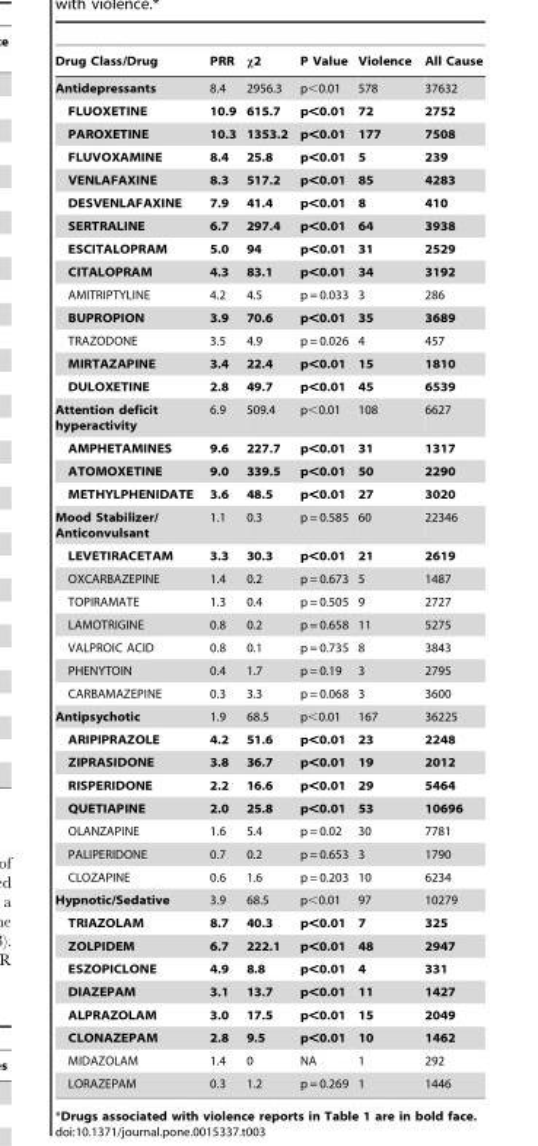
<table><thead><tr><td>Drug Class/Drug</td><td>PRR</td><td>x2</td><td>P Value</td><td>Violence</td><td>All Cause</td></tr></thead><tbody><tr><td>Antidepressants</td><td>8.4</td><td>2956.3</td><td>p&lt;0.01</td><td>578</td><td>37632</td></tr><tr><td>FLUOXETINE</td><td>10.9</td><td>615.7</td><td>p&lt;0.01</td><td>72</td><td>2752</td></tr><tr><td>PAROXETINE</td><td>10.3</td><td>1353.2</td><td>p&lt;0.01</td><td>177</td><td>7508</td></tr><tr><td>FLUVOXAMINE</td><td>8.4</td><td>25.8</td><td>p&lt;0.01</td><td>5</td><td>239</td></tr><tr><td>VENLAFAXINE</td><td>8.3</td><td>517.2</td><td>p&lt;0.01</td><td>85</td><td>4283</td></tr><tr><td>DESVENLAFAXINE</td><td>7.9</td><td>41.4</td><td>p&lt;0.01</td><td>8</td><td>410</td></tr><tr><td>SERTRALINE</td><td>6.7</td><td>297.4</td><td>p&lt;0.01</td><td>64</td><td>3938</td></tr><tr><td>ESCITALOPRAM</td><td>5.0</td><td>94</td><td>p&lt;0.01</td><td>31</td><td>2529</td></tr><tr><td>CITALOPRAM</td><td>4.3</td><td>83.1</td><td>p&lt;0.01</td><td>34</td><td>3192</td></tr><tr><td>AMITRIPTYLINE</td><td>4.2</td><td>4.5</td><td>p = 0.033</td><td>3</td><td>286</td></tr><tr><td>BUPROPION</td><td>3.9</td><td>70.6</td><td>p&lt;0.01</td><td>35</td><td>3689</td></tr><tr><td>TRAZODONE</td><td>3.5</td><td>4.9</td><td>p = 0.026</td><td>4</td><td>457</td></tr><tr><td>MIRTAZAPINE</td><td>3.4</td><td>22.4</td><td>p&lt;0.01</td><td>15</td><td>1810</td></tr><tr><td>DULOXETINE</td><td>2.8</td><td>49.7</td><td>p&lt;0.01</td><td>45</td><td>6539</td></tr><tr><td>Attention deficit hyperactivity</td><td>6.9</td><td>509.4</td><td>p&lt;0.01</td><td>108</td><td>6627</td></tr><tr><td>AMPHETAMINES</td><td>9.6</td><td>227.7</td><td>p&lt;0.01</td><td>31</td><td>1317</td></tr><tr><td>ATOMOXETINE</td><td>9.0</td><td>339.5</td><td>p&lt;0.01</td><td>50</td><td>2290</td></tr><tr><td>METHYLPHENIDATE</td><td>3.6</td><td>48.5</td><td>p&lt;0.01</td><td>27</td><td>3020</td></tr><tr><td>Mood Stabilizer/ Anticonvulsant</td><td>1.1</td><td>0.3</td><td>p = 0.585</td><td>60</td><td>22346</td></tr><tr><td>LEVETIRACETAM</td><td>3.3</td><td>30.3</td><td>p&lt;0.01</td><td>21</td><td>2619</td></tr><tr><td>OXCARBAZEPINE</td><td>1.4</td><td>0.2</td><td>p = 0.673</td><td>5</td><td>1487</td></tr><tr><td>TOPIRAMATE</td><td>1.3</td><td>0.4</td><td>p = 0.505</td><td>9</td><td>2727</td></tr><tr><td>LAMOTRIGINE</td><td>0.8</td><td>0.2</td><td>p = 0.658</td><td>11</td><td>5275</td></tr><tr><td>VALPROIC ACID</td><td>0.8</td><td>0.1</td><td>p = 0.735</td><td>8</td><td>3843</td></tr><tr><td>PHENYTOIN</td><td>0.4</td><td>1.7</td><td>p = 0.19</td><td>3</td><td>2795</td></tr><tr><td>CARBAMAZEPINE</td><td>0.3</td><td>3.3</td><td>p = 0.068</td><td>3</td><td>3600</td></tr><tr><td>Antipsychotic</td><td>1.9</td><td>68.5</td><td>p&lt;0.01</td><td>167</td><td>36225</td></tr><tr><td>ARIPIPRAZOLE</td><td>4.2</td><td>51.6</td><td>p&lt;0.01</td><td>23</td><td>2248</td></tr><tr><td>ZIPRASIDONE</td><td>3.8</td><td>36.7</td><td>p&lt;0.01</td><td>19</td><td>2012</td></tr><tr><td>RISPERIDONE</td><td>2.2</td><td>16.6</td><td>p&lt;0.01</td><td>29</td><td>5464</td></tr><tr><td>QUETIAPINE</td><td>2.0</td><td>25.8</td><td>p&lt;0.01</td><td>53</td><td>10696</td></tr><tr><td>OLANZAPINE</td><td>1.6</td><td>5.4</td><td>p = 0.02</td><td>30</td><td>7781</td></tr><tr><td>PALIPERIDONE</td><td>0.7</td><td>0.2</td><td>p = 0.653</td><td>3</td><td>1790</td></tr><tr><td>CLOZAPINE</td><td>0.6</td><td>1.6</td><td>p = 0.203</td><td>10</td><td>6234</td></tr><tr><td>Hypnotic/Sedative</td><td>3.9</td><td>68.5</td><td>p&lt;0.01</td><td>97</td><td>10279</td></tr><tr><td>TRIAZOLAM</td><td>8.7</td><td>40.3</td><td>p&lt;0.01</td><td>7</td><td>325</td></tr><tr><td>ZOLPIDEM</td><td>6.7</td><td>222.1</td><td>p&lt;0.01</td><td>48</td><td>2947</td></tr><tr><td>ESZOPICLONE</td><td>4.9</td><td>8.8</td><td>p&lt;0.01</td><td>4</td><td>331</td></tr><tr><td>DIAZEPAM</td><td>3.1</td><td>13.7</td><td>p&lt;0.01</td><td>11</td><td>1427</td></tr><tr><td>ALPRAZOLAM</td><td>3.0</td><td>17.5</td><td>p&lt;0.01</td><td>15</td><td>2049</td></tr><tr><td>CLONAZEPAM</td><td>2.8</td><td>9.5</td><td>p&lt;0.01</td><td>10</td><td>1462</td></tr><tr><td>MIDAZOLAM</td><td>1.4</td><td>0</td><td>NA</td><td>1</td><td>292</td></tr><tr><td>LORAZEPAM</td><td>0.3</td><td>1.2</td><td>p = 0.269</td><td>1</td><td>1446</td></tr></tbody></table>